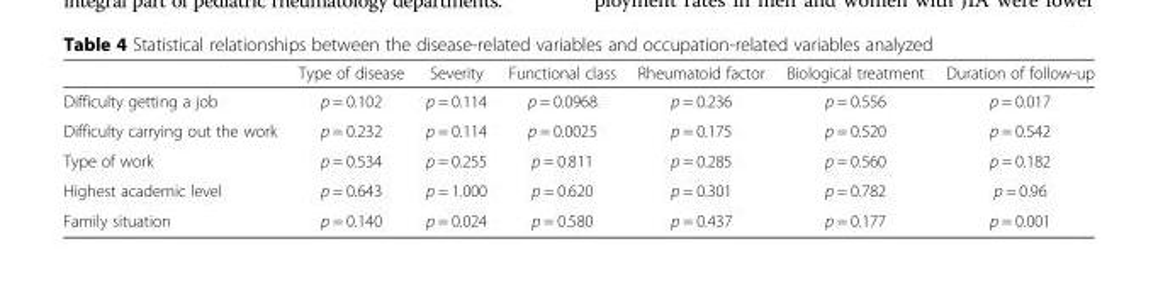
<table><thead><tr><td></td><td>Type of disease</td><td>Severity</td><td>Functional class</td><td>Rheumatoid factor</td><td>Biological treatment</td><td>Duration of follow-up</td></tr></thead><tbody><tr><td>Difficulty getting a job</td><td>p = 0.102</td><td>p = 0.114</td><td>p = 0.0968</td><td>p = 0.236</td><td>p = 0.556</td><td>p = 0.017</td></tr><tr><td>Difficulty carrying out the work</td><td>p = 0.232</td><td>p = 0.114</td><td>p = 0.0025</td><td>p = 0.175</td><td>p = 0.520</td><td>p = 0.542</td></tr><tr><td>Type of work</td><td>p = 0.534</td><td>p = 0.255</td><td>p = 0.811</td><td>p = 0.285</td><td>p = 0.560</td><td>p = 0.182</td></tr><tr><td>Highest academic level</td><td>p = 0.643</td><td>p = 1.000</td><td>p = 0.620</td><td>p = 0.301</td><td>p = 0.782</td><td>p = 0.96</td></tr><tr><td>Family situation</td><td>p = 0.140</td><td>p = 0.024</td><td>p = 0.580</td><td>p = 0.437</td><td>p = 0.177</td><td>p = 0.001</td></tr></tbody></table>